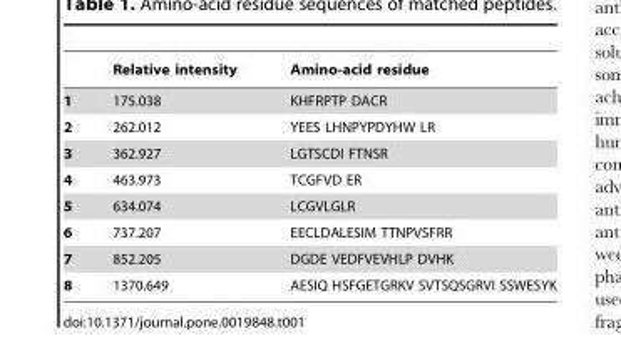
<table><thead><tr><td></td><td>Relative intensity</td><td>Amino-acid residue</td></tr></thead><tbody><tr><td>1</td><td>175.038</td><td>KHFRPTP DACR</td></tr><tr><td>2</td><td>262.012</td><td>YEES LHNPYPDYHW LR</td></tr><tr><td>3</td><td>362.927</td><td>LGTSCDI FTNSR</td></tr><tr><td>4</td><td>463.973</td><td>TCGFVD ER</td></tr><tr><td>5</td><td>634.074</td><td>LCGVLGLR</td></tr><tr><td>6</td><td>737.207</td><td>EECLDALESIM TTNPVSFRR</td></tr><tr><td>7</td><td>852.205</td><td>DGDE VEDFVEVHLP DVHK</td></tr><tr><td>8</td><td>1370.649</td><td>AESIQ HSFGETGRKV SVTSQSGRVI SSWESYK</td></tr></tbody></table>